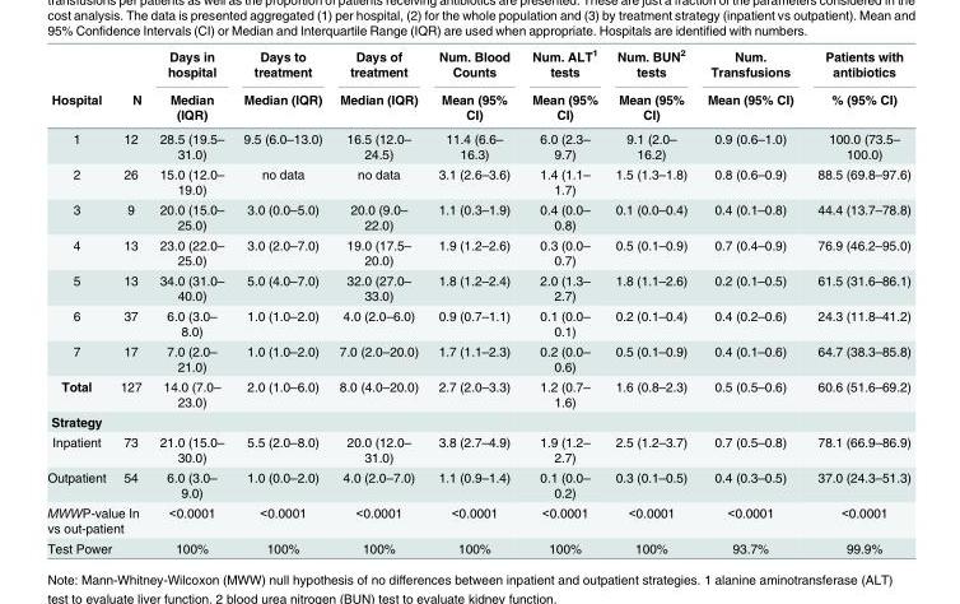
<table><thead><tr><td rowspan="2">Hospital</td><td rowspan="2">N</td><td rowspan="2">Days in hospital Median (IQR)</td><td rowspan="2">Days to treatment Median (IQR)</td><td rowspan="2">Days of treatment Median (IQR)</td><td rowspan="2">Num. Blood Counts Mean (95% CI)</td><td rowspan="2">Num. ALT<sup>1</sup> tests Mean (95% CI)</td><td rowspan="2">Num. BUN<sup>2</sup> tests Mean (95% CI)</td><td rowspan="2">Num. Transfusions Mean (95% CI)</td><td rowspan="2">Patients with antibiotics % (95% CI)</td></tr><tr></tr></thead><tbody><tr><td>1</td><td>12</td><td>28.5 (19.5– 31.0)</td><td>9.5 (6.0–13.0)</td><td>16.5 (12.0– 24.5)</td><td>11.4 (6.6– 16.3)</td><td>6.0 (2.3– 9.7)</td><td>9.1 (2.0– 16.2)</td><td>0.9 (0.6–1.0)</td><td>100.0 (73.5– 100.0)</td></tr><tr><td>2</td><td>26</td><td>15.0 (12.0– 19.0)</td><td>no data</td><td>no data</td><td>3.1 (2.6–3.6)</td><td>1.4 (1.1– 1.7)</td><td>1.5 (1.3–1.8)</td><td>0.8 (0.6–0.9)</td><td>88.5 (69.8–97.6)</td></tr><tr><td>3</td><td>9</td><td>20.0 (15.0– 25.0)</td><td>3.0 (0.0–5.0)</td><td>20.0 (9.0– 22.0)</td><td>1.1 (0.3–1.9)</td><td>0.4 (0.0– 0.8)</td><td>0.1 (0.0–0.4)</td><td>0.4 (0.1–0.8)</td><td>44.4 (13.7–78.8)</td></tr><tr><td>4</td><td>13</td><td>23.0 (22.0– 25.0)</td><td>3.0 (2.0–7.0)</td><td>19.0 (17.5– 20.0)</td><td>1.9 (1.2–2.6)</td><td>0.3 (0.0– 0.7)</td><td>0.5 (0.1–0.9)</td><td>0.7 (0.4–0.9)</td><td>76.9 (46.2–95.0)</td></tr><tr><td>5</td><td>13</td><td>34.0 (31.0– 40.0)</td><td>5.0 (4.0–7.0)</td><td>32.0 (27.0– 33.0)</td><td>1.8 (1.2–2.4)</td><td>2.0 (1.3– 2.7)</td><td>1.8 (1.1–2.6)</td><td>0.2 (0.1–0.5)</td><td>61.5 (31.6–86.1)</td></tr><tr><td>6</td><td>37</td><td>6.0 (3.0– 8.0)</td><td>1.0 (1.0–2.0)</td><td>4.0 (2.0–6.0)</td><td>0.9 (0.7–1.1)</td><td>0.1 (0.0– 0.1)</td><td>0.2 (0.1–0.4)</td><td>0.4 (0.2–0.6)</td><td>24.3 (11.8–41.2)</td></tr><tr><td>7</td><td>17</td><td>7.0 (2.0– 21.0)</td><td>1.0 (1.0–2.0)</td><td>7.0 (2.0–20.0)</td><td>1.7 (1.1–2.3)</td><td>0.2 (0.0– 0.6)</td><td>0.5 (0.1–0.9)</td><td>0.4 (0.1–0.6)</td><td>64.7 (38.3–85.8)</td></tr><tr><td>Total</td><td>127</td><td>14.0 (7.0– 23.0)</td><td>2.0 (1.0–6.0)</td><td>8.0 (4.0–20.0)</td><td>2.7 (2.0–3.3)</td><td>1.2 (0.7– 1.6)</td><td>1.6 (0.8–2.3)</td><td>0.5 (0.5–0.6)</td><td>60.6 (51.6–69.2)</td></tr><tr><td colspan="10">Strategy</td></tr><tr><td>Inpatient</td><td>73</td><td>21.0 (15.0– 30.0)</td><td>5.5 (2.0–8.0)</td><td>20.0 (12.0– 31.0)</td><td>3.8 (2.7–4.9)</td><td>1.9 (1.2– 2.7)</td><td>2.5 (1.2–3.7)</td><td>0.7 (0.5–0.8)</td><td>78.1 (66.9–86.9)</td></tr><tr><td>Outpatient</td><td>54</td><td>6.0 (3.0– 9.0)</td><td>1.0 (0.0–2.0)</td><td>4.0 (2.0–7.0)</td><td>1.1 (0.9–1.4)</td><td>0.1 (0.0– 0.2)</td><td>0.3 (0.1–0.5)</td><td>0.4 (0.3–0.5)</td><td>37.0 (24.3–51.3)</td></tr><tr><td colspan="2">MWWP-value In vs out-patient</td><td>&lt;0.0001</td><td>&lt;0.0001</td><td>&lt;0.0001</td><td>&lt;0.0001</td><td>&lt;0.0001</td><td>&lt;0.0001</td><td>&lt;0.0001</td><td>&lt;0.0001</td></tr><tr><td colspan="2">Test Power</td><td>100%</td><td>100%</td><td>100%</td><td>100%</td><td>100%</td><td>100%</td><td>93.7%</td><td>99.9%</td></tr></tbody></table>